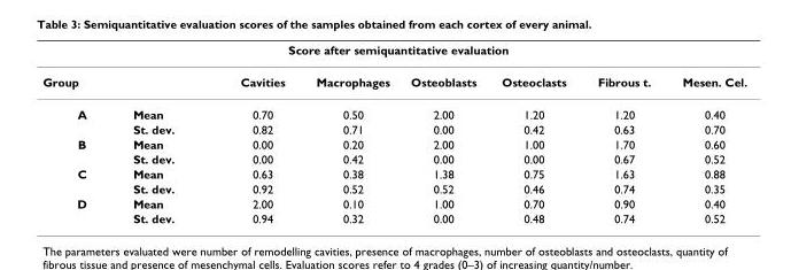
<table><thead><tr><td colspan="8">Score after semiquantitative evaluation</td></tr><tr><td colspan="2">Group</td><td rowspan="2">Cavities 0.70</td><td rowspan="2">Macrophages 0.50</td><td rowspan="2">Osteoblasts 2.00</td><td rowspan="2">Osteoclasts 1.20</td><td rowspan="2">Fibrous t. 1.20</td><td rowspan="2">Mesen. Cel. 0.40</td></tr><tr><td>A</td><td>Mean</td></tr></thead><tbody><tr><td></td><td>St. dev.</td><td>0.82</td><td>0.71</td><td>0.00</td><td>0.42</td><td>0.63</td><td>0.70</td></tr><tr><td rowspan="2">B</td><td>Mean</td><td>0.00</td><td>0.20</td><td>2.00</td><td>1.00</td><td>1.70</td><td>0.60</td></tr><tr><td>St. dev.</td><td>0.00</td><td>0.42</td><td>0.00</td><td>0.00</td><td>0.67</td><td>0.52</td></tr><tr><td rowspan="2">C</td><td>Mean</td><td>0.63</td><td>0.38</td><td>1.38</td><td>0.75</td><td>1.63</td><td>0.88</td></tr><tr><td>St. dev.</td><td>0.92</td><td>0.52</td><td>0.52</td><td>0.46</td><td>0.74</td><td>0.35</td></tr><tr><td rowspan="2">D</td><td>Mean</td><td>2.00</td><td>0.10</td><td>1.00</td><td>0.70</td><td>0.90</td><td>0.40</td></tr><tr><td>St. dev.</td><td>0.94</td><td>0.32</td><td>0.00</td><td>0.48</td><td>0.74</td><td>0.52</td></tr></tbody></table>